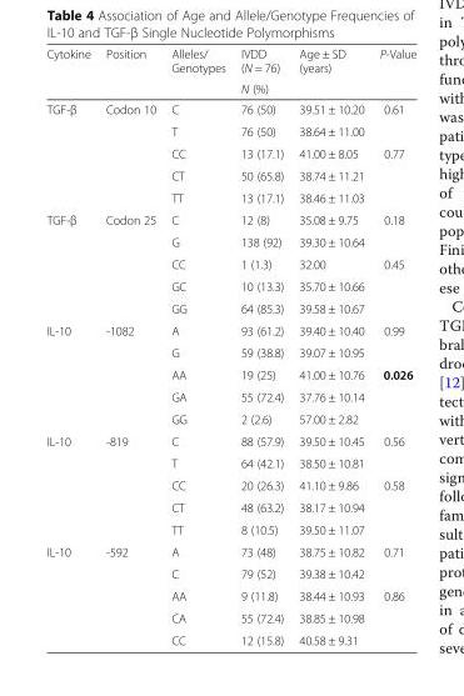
<table><thead><tr><td rowspan="2">Cytokine</td><td rowspan="2">Position</td><td rowspan="2">Alleles/ Genotypes</td><td rowspan="2">IVDD (N = 76) N (%)</td><td rowspan="2">Age ± SD (years)</td><td rowspan="2">P-Value</td></tr><tr></tr></thead><tbody><tr><td rowspan="5">TGF-β</td><td rowspan="5">Codon 10</td><td>C</td><td>76 (50)</td><td>39.51 ± 10.20</td><td rowspan="2">0.61</td></tr><tr><td>T</td><td>76 (50)</td><td>38.64 ± 11.00</td></tr><tr><td>CC</td><td>13 (17.1)</td><td>41.00 ± 8.05</td><td rowspan="3">0.77</td></tr><tr><td>CT</td><td>50 (65.8)</td><td>38.74 ± 11.21</td></tr><tr><td>TT</td><td>13 (17.1)</td><td>38.46 ± 11.03</td></tr><tr><td rowspan="5">TGF-β</td><td rowspan="5">Codon 25</td><td>C</td><td>12 (8)</td><td>35.08 ± 9.75</td><td rowspan="2">0.18</td></tr><tr><td>G</td><td>138 (92)</td><td>39.30 ± 10.64</td></tr><tr><td>CC</td><td>1 (1.3)</td><td>32.00</td><td rowspan="3">0.45</td></tr><tr><td>GC</td><td>10 (13.3)</td><td>35.70 ± 10.66</td></tr><tr><td>GG</td><td>64 (85.3)</td><td>39.58 ± 10.67</td></tr><tr><td rowspan="5">IL-10</td><td rowspan="5">-1082</td><td>A</td><td>93 (61.2)</td><td>39.40 ± 10.40</td><td rowspan="2">0.99</td></tr><tr><td>G</td><td>59 (38.8)</td><td>39.07 ± 10.95</td></tr><tr><td>AA</td><td>19 (25)</td><td>41.00 ± 10.76</td><td rowspan="3">0.026</td></tr><tr><td>GA</td><td>55 (72.4)</td><td>37.76 ± 10.14</td></tr><tr><td>GG</td><td>2 (2.6)</td><td>57.00 ± 2.82</td></tr><tr><td rowspan="5">IL-10</td><td rowspan="5">-819</td><td>C</td><td>88 (57.9)</td><td>39.50 ± 10.45</td><td rowspan="2">0.56</td></tr><tr><td>T</td><td>64 (42.1)</td><td>38.50 ± 10.81</td></tr><tr><td>CC</td><td>20 (26.3)</td><td>41.10 ± 9.86</td><td rowspan="3">0.58</td></tr><tr><td>CT</td><td>48 (63.2)</td><td>38.17 ± 10.94</td></tr><tr><td>TT</td><td>8 (10.5)</td><td>39.50 ± 11.07</td></tr><tr><td rowspan="5">IL-10</td><td rowspan="5">-592</td><td>A</td><td>73 (48)</td><td>38.75 ± 10.82</td><td rowspan="2">0.71</td></tr><tr><td>C</td><td>79 (52)</td><td>39.38 ± 10.42</td></tr><tr><td>AA</td><td>9 (11.8)</td><td>38.44 ± 10.93</td><td rowspan="3">0.86</td></tr><tr><td>CA</td><td>55 (72.4)</td><td>38.85 ± 10.98</td></tr><tr><td>CC</td><td>12 (15.8)</td><td>40.58 ± 9.31</td></tr></tbody></table>